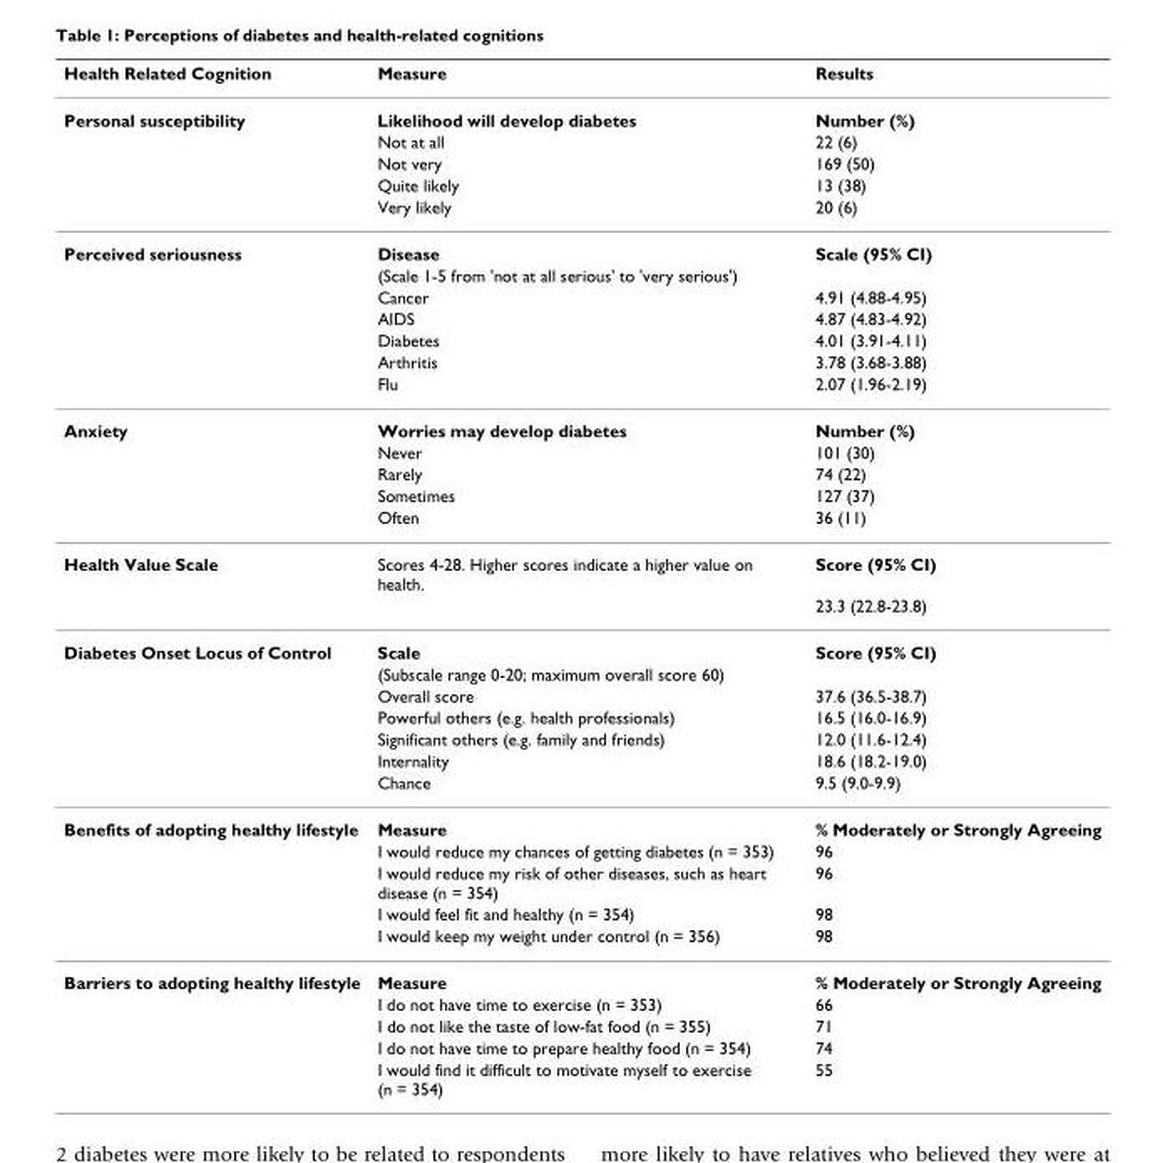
<table><thead><tr><td>Health Related Cognition</td><td>Measure</td><td>Results</td></tr></thead><tbody><tr><td rowspan="5">Personal susceptibility</td><td>Likelihood will develop diabetes</td><td>Number (%)</td></tr><tr><td>Not at all</td><td>22 (6)</td></tr><tr><td>Not very</td><td>169 (50)</td></tr><tr><td>Quite likely</td><td>13 (38)</td></tr><tr><td>Very likely</td><td>20 (6)</td></tr><tr><td rowspan="7">Perceived seriousness</td><td>Disease</td><td>Scale (95% CI)</td></tr><tr><td>(Scale 1-5 from &#x27;not at all serious&#x27; to &#x27;very serious&#x27;)</td><td></td></tr><tr><td>Cancer</td><td>4.91 (4.88-4.95)</td></tr><tr><td>AIDS</td><td>4.87 (4.83-4.92)</td></tr><tr><td>Diabetes</td><td>4.01 (3.91-4.11)</td></tr><tr><td>Arthritis</td><td>3.78 (3.68-3.88)</td></tr><tr><td>Flu</td><td>2.07 (1.96-2.19)</td></tr><tr><td rowspan="5">Anxiety</td><td>Worries may develop diabetes</td><td>Number (%)</td></tr><tr><td>Never</td><td>101 (30)</td></tr><tr><td>Rarely</td><td>74 (22)</td></tr><tr><td>Sometimes</td><td>127 (37)</td></tr><tr><td>Often</td><td>36 (11)</td></tr><tr><td rowspan="2">Health Value Scale</td><td>Scores 4-28. Higher scores indicate a higher value on health.</td><td>Score (95% CI)</td></tr><tr><td></td><td>23.3 (22.8-23.8)</td></tr><tr><td rowspan="7">Diabetes Onset Locus of Control</td><td>Scale</td><td>Score (95% CI)</td></tr><tr><td>(Subscale range 0-20; maximum overall score 60)</td><td></td></tr><tr><td>Overall score</td><td>37.6 (36.5-38.7)</td></tr><tr><td>Powerful others (e.g. health professionals)</td><td>16.5 (16.0-16.9)</td></tr><tr><td>Significant others (e.g. family and friends)</td><td>12.0 (11.6-12.4)</td></tr><tr><td>Internality</td><td>18.6 (18.2-19.0)</td></tr><tr><td>Chance</td><td>9.5 (9.0-9.9)</td></tr><tr><td rowspan="5">Benefits of adopting healthy lifestyle</td><td>Measure</td><td>% Moderately or Strongly Agreeing</td></tr><tr><td>I would reduce my chances of getting diabetes (n = 353)</td><td>96</td></tr><tr><td>I would reduce my risk of other diseases, such as heart disease (n = 354)</td><td>96</td></tr><tr><td>I would feel fit and healthy (n = 354)</td><td>98</td></tr><tr><td>I would keep my weight under control (n = 356)</td><td>98</td></tr><tr><td rowspan="5">Barriers to adopting healthy lifestyle</td><td>Measure</td><td>% Moderately or Strongly Agreeing</td></tr><tr><td>I do not have time to exercise (n = 353)</td><td>66</td></tr><tr><td>I do not like the taste of low-fat food (n = 355)</td><td>71</td></tr><tr><td>I do not have time to prepare healthy food (n = 354)</td><td>74</td></tr><tr><td>I would find it difficult to motivate myself to exercise (n = 354)</td><td>55</td></tr></tbody></table>